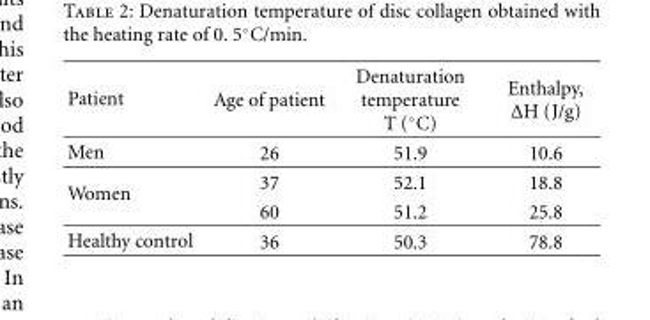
<table><thead><tr><td>Patient</td><td>Age of patient</td><td>Denaturation temperature T (◦C)</td><td>Enthalpy, ΔH (J/g)</td></tr></thead><tbody><tr><td>Men</td><td>26</td><td>51.9</td><td>10.6</td></tr><tr><td rowspan="2">Women</td><td>37</td><td>52.1</td><td>18.8</td></tr><tr><td>60</td><td>51.2</td><td>25.8</td></tr><tr><td>Healthy control</td><td>36</td><td>50.3</td><td>78.8</td></tr></tbody></table>